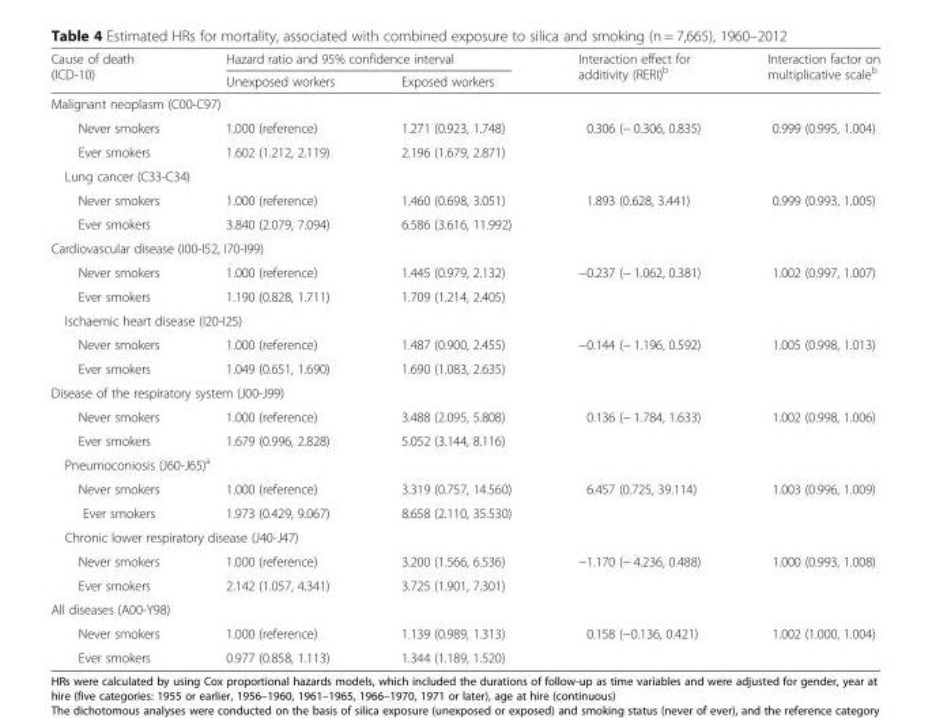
<table><thead><tr><td rowspan="2">Cause of death (ICD-10)</td><td colspan="2">Hazard ratio and 95% confidence interval</td><td rowspan="2">Interaction effect for additivity (RERI)<sup>b</sup></td><td rowspan="2">Interaction factor on multiplicative scale<sup>b</sup></td></tr><tr><td>Unexposed workers</td><td>Exposed workers</td></tr></thead><tbody><tr><td colspan="5">Malignant neoplasm (C00-C97)</td></tr><tr><td>Never smokers</td><td>1.000 (reference)</td><td>1.271 (0.923, 1.748)</td><td rowspan="2">0.306 (− 0.306, 0.835)</td><td rowspan="2">0.999 (0.995, 1.004)</td></tr><tr><td>Ever smokers</td><td>1.602 (1.212, 2.119)</td><td>2.196 (1.679, 2.871)</td></tr><tr><td colspan="5">Lung cancer (C33-C34)</td></tr><tr><td>Never smokers</td><td>1.000 (reference)</td><td>1.460 (0.698, 3.051)</td><td rowspan="2">1.893 (0.628, 3.441)</td><td rowspan="2">0.999 (0.993, 1.005)</td></tr><tr><td>Ever smokers</td><td>3.840 (2.079, 7.094)</td><td>6.586 (3.616, 11.992)</td></tr><tr><td colspan="5">Cardiovascular disease (I00-I52, I70-I99)</td></tr><tr><td>Never smokers</td><td>1.000 (reference)</td><td>1.445 (0.979, 2.132)</td><td rowspan="2">−0.237 (− 1.062, 0.381)</td><td rowspan="2">1.002 (0.997, 1.007)</td></tr><tr><td>Ever smokers</td><td>1.190 (0.828, 1.711)</td><td>1.709 (1.214, 2.405)</td></tr><tr><td colspan="5">Ischaemic heart disease (I20-I25)</td></tr><tr><td>Never smokers</td><td>1.000 (reference)</td><td>1.487 (0.900, 2.455)</td><td rowspan="2">−0.144 (− 1.196, 0.592)</td><td rowspan="2">1.005 (0.998, 1.013)</td></tr><tr><td>Ever smokers</td><td>1.049 (0.651, 1.690)</td><td>1.690 (1.083, 2.635)</td></tr><tr><td colspan="5">Disease of the respiratory system (J00-J99)</td></tr><tr><td>Never smokers</td><td>1.000 (reference)</td><td>3.488 (2.095, 5.808)</td><td rowspan="2">0.136 (− 1.784, 1.633)</td><td rowspan="2">1.002 (0.998, 1.006)</td></tr><tr><td>Ever smokers</td><td>1.679 (0.996, 2.828)</td><td>5.052 (3.144, 8.116)</td></tr><tr><td colspan="5">Pneumoconiosis (J60-J65)<sup>a</sup></td></tr><tr><td>Never smokers</td><td>1.000 (reference)</td><td>3.319 (0.757, 14.560)</td><td rowspan="2">6.457 (0.725, 39.114)</td><td rowspan="2">1.003 (0.996, 1.009)</td></tr><tr><td>Ever smokers</td><td>1.973 (0.429, 9.067)</td><td>8.658 (2.110, 35.530)</td></tr><tr><td colspan="5">Chronic lower respiratory disease (J40-J47)</td></tr><tr><td>Never smokers</td><td>1.000 (reference)</td><td>3.200 (1.566, 6.536)</td><td rowspan="2">−1.170 (− 4.236, 0.488)</td><td rowspan="2">1.000 (0.993, 1.008)</td></tr><tr><td>Ever smokers</td><td>2.142 (1.057, 4.341)</td><td>3.725 (1.901, 7.301)</td></tr><tr><td colspan="5">All diseases (A00-Y98)</td></tr><tr><td>Never smokers</td><td>1.000 (reference)</td><td>1.139 (0.989, 1.313)</td><td rowspan="2">0.158 (−0.136, 0.421)</td><td rowspan="2">1.002 (1.000, 1.004)</td></tr><tr><td>Ever smokers</td><td>0.977 (0.858, 1.113)</td><td>1.344 (1.189, 1.520)</td></tr></tbody></table>